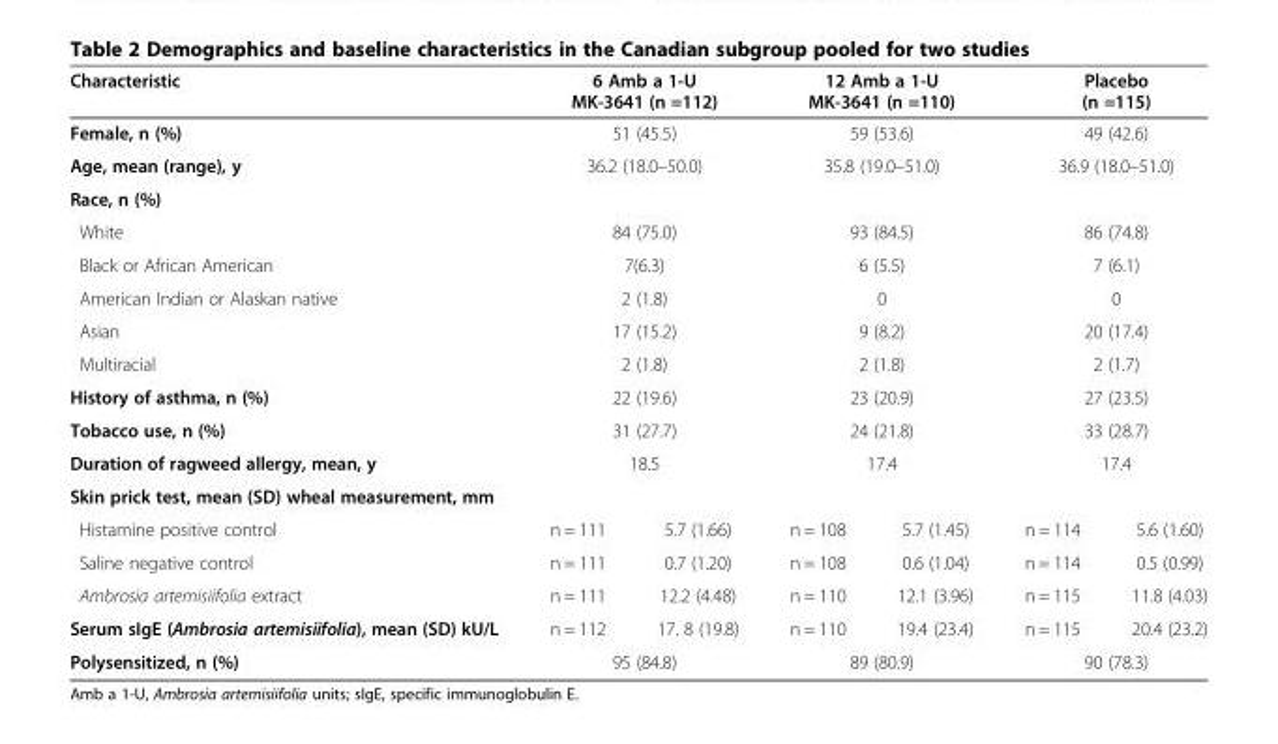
<table><thead><tr><td>Characteristic</td><td colspan="2">6 Amb a 1-U MK-3641 (n =112)</td><td colspan="2">12 Amb a 1-U MK-3641 (n =110)</td><td colspan="2">Placebo (n =115)</td></tr></thead><tbody><tr><td>Female, n (%)</td><td colspan="2">51 (45.5)</td><td colspan="2">59 (53.6)</td><td colspan="2">49 (42.6)</td></tr><tr><td>Age, mean (range), y</td><td colspan="2">36.2 (18.0–50.0)</td><td colspan="2">35.8 (19.0–51.0)</td><td colspan="2">36.9 (18.0–51.0)</td></tr><tr><td colspan="7">Race, n (%)</td></tr><tr><td>White</td><td colspan="2">84 (75.0)</td><td colspan="2">93 (84.5)</td><td colspan="2">86 (74.8)</td></tr><tr><td>Black or African American</td><td colspan="2">7(6.3)</td><td colspan="2">6 (5.5)</td><td colspan="2">7 (6.1)</td></tr><tr><td>American Indian or Alaskan native</td><td colspan="2">2 (1.8)</td><td colspan="2">0</td><td colspan="2">0</td></tr><tr><td>Asian</td><td colspan="2">17 (15.2)</td><td colspan="2">9 (8.2)</td><td colspan="2">20 (17.4)</td></tr><tr><td>Multiracial</td><td colspan="2">2 (1.8)</td><td colspan="2">2 (1.8)</td><td colspan="2">2 (1.7)</td></tr><tr><td>History of asthma, n (%)</td><td colspan="2">22 (19.6)</td><td colspan="2">23 (20.9)</td><td colspan="2">27 (23.5)</td></tr><tr><td>Tobacco use, n (%)</td><td colspan="2">31 (27.7)</td><td colspan="2">24 (21.8)</td><td colspan="2">33 (28.7)</td></tr><tr><td>Duration of ragweed allergy, mean, y</td><td colspan="2">18.5</td><td colspan="2">17.4</td><td colspan="2">17.4</td></tr><tr><td colspan="7">Skin prick test, mean (SD) wheal measurement, mm</td></tr><tr><td>Histamine positive control</td><td>n = 111</td><td>5.7 (1.66)</td><td>n = 108</td><td>5.7 (1.45)</td><td>n = 114</td><td>5.6 (1.60)</td></tr><tr><td>Saline negative control</td><td>n = 111</td><td>0.7 (1.20)</td><td>n = 108</td><td>0.6 (1.04)</td><td>n = 114</td><td>0.5 (0.99)</td></tr><tr><td>Ambrosia artemisiifolia extract</td><td>n = 111</td><td>12.2 (4.48)</td><td>n = 110</td><td>12.1 (3.96)</td><td>n = 115</td><td>11.8 (4.03)</td></tr><tr><td>Serum sIgE (Ambrosia artemisiifolia), mean (SD) kU/L</td><td>n = 112</td><td>17. 8 (19.8)</td><td>n = 110</td><td>19.4 (23.4)</td><td>n = 115</td><td>20.4 (23.2)</td></tr><tr><td>Polysensitized, n (%)</td><td colspan="2">95 (84.8)</td><td colspan="2">89 (80.9)</td><td colspan="2">90 (78.3)</td></tr></tbody></table>